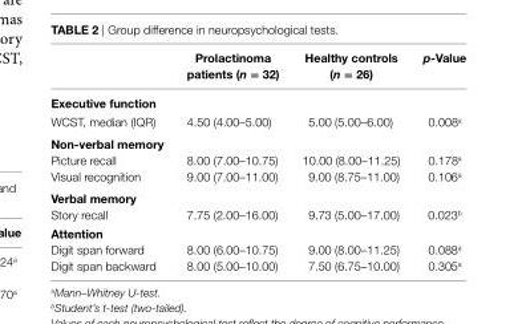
<table><thead><tr><td></td><td>Prolactinoma patients (n = 32)</td><td>healthy controls (n = 26)</td><td>p-Value</td></tr></thead><tbody><tr><td colspan="4">executive function</td></tr><tr><td>WCST, median (IQR)</td><td>4.50 (4.00–5.00)</td><td>5.00 (5.00–6.00)</td><td>0.008<sup>a</sup></td></tr><tr><td colspan="4">non-verbal memory</td></tr><tr><td>Picture recall</td><td>8.00 (7.00–10.75)</td><td>10.00 (8.00–11.25)</td><td>0.178<sup>a</sup></td></tr><tr><td>Visual recognition</td><td>9.00 (7.00–11.00)</td><td>9.00 (8.75–11.00)</td><td>0.106<sup>a</sup></td></tr><tr><td colspan="4">Verbal memory</td></tr><tr><td>Story recall</td><td>7.75 (2.00–16.00)</td><td>9.73 (5.00–17.00)</td><td>0.023<sup>b</sup></td></tr><tr><td colspan="4">attention</td></tr><tr><td>Digit span forward</td><td>8.00 (6.00–10.75)</td><td>9.00 (8.00–11.25)</td><td>0.088<sup>a</sup></td></tr><tr><td>Digit span backward</td><td>8.00 (5.00–10.00)</td><td>7.50 (6.75–10.00)</td><td>0.305<sup>a</sup></td></tr></tbody></table>